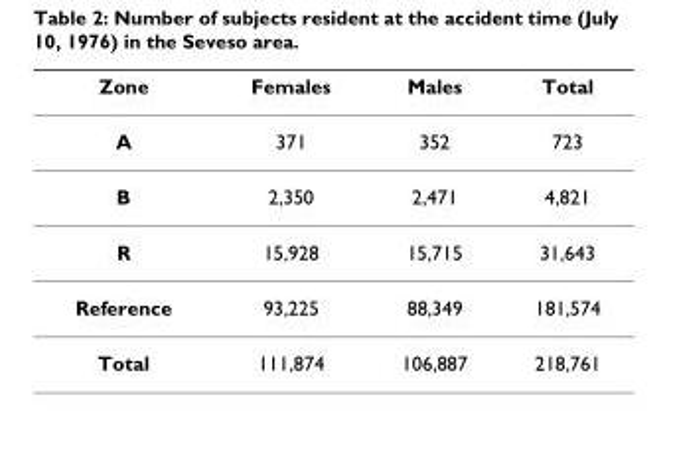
<table><thead><tr><td>Zone</td><td>Females</td><td>Males</td><td>Total</td></tr></thead><tbody><tr><td>A</td><td>371</td><td>352</td><td>723</td></tr><tr><td>B</td><td>2,350</td><td>2,471</td><td>4,821</td></tr><tr><td>R</td><td>15,928</td><td>15,715</td><td>31,643</td></tr><tr><td>Reference</td><td>93,225</td><td>88,349</td><td>181,574</td></tr><tr><td>Total</td><td>111,874</td><td>106,887</td><td>218,761</td></tr></tbody></table>